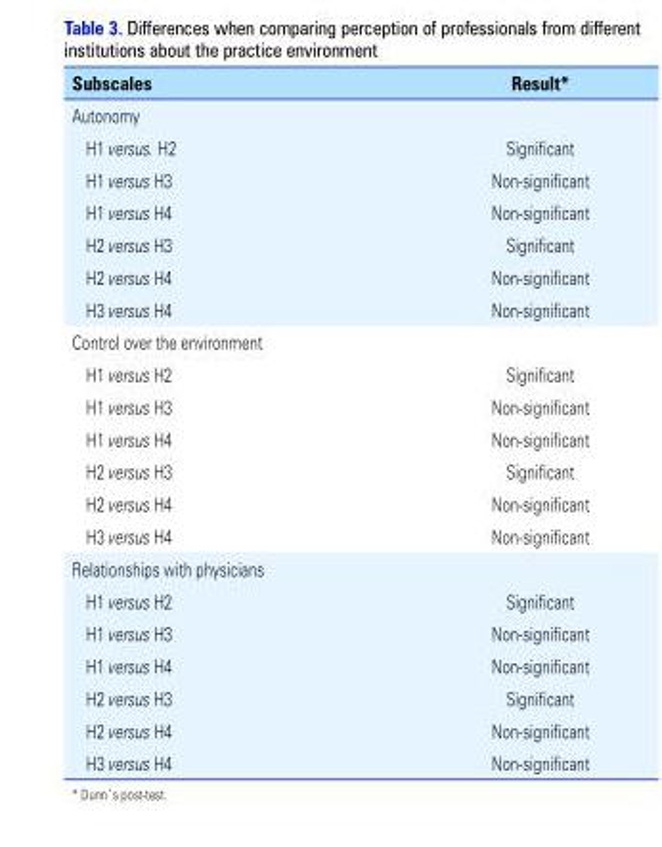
<table><thead><tr><td>Subscales</td><td>Result*</td></tr></thead><tbody><tr><td colspan="2">Autonomy</td></tr><tr><td>H1 versus. H2</td><td>Significant</td></tr><tr><td>H1 versus H3</td><td>Non-significant</td></tr><tr><td>H1 versus H4</td><td>Non-significant</td></tr><tr><td>H2 versus H3</td><td>Significant</td></tr><tr><td>H2 versus H4</td><td>Non-significant</td></tr><tr><td>H3 versus H4</td><td>Non-significant</td></tr><tr><td colspan="2">Control over the environment</td></tr><tr><td>H1 versus H2</td><td>Significant</td></tr><tr><td>H1 versus H3</td><td>Non-significant</td></tr><tr><td>H1 versus H4</td><td>Non-significant</td></tr><tr><td>H2 versus H3</td><td>Significant</td></tr><tr><td>H2 versus H4</td><td>Non-significant</td></tr><tr><td>H3 versus H4</td><td>Non-significant</td></tr><tr><td colspan="2">Relationships with physicians</td></tr><tr><td>H1 versus H2</td><td>Significant</td></tr><tr><td>H1 versus H3</td><td>Non-significant</td></tr><tr><td>H1 versus H4</td><td>Non-significant</td></tr><tr><td>H2 versus H3</td><td>Significant</td></tr><tr><td>H2 versus H4</td><td>Non-significant</td></tr><tr><td>H3 versus H4</td><td>Non-significant</td></tr></tbody></table>